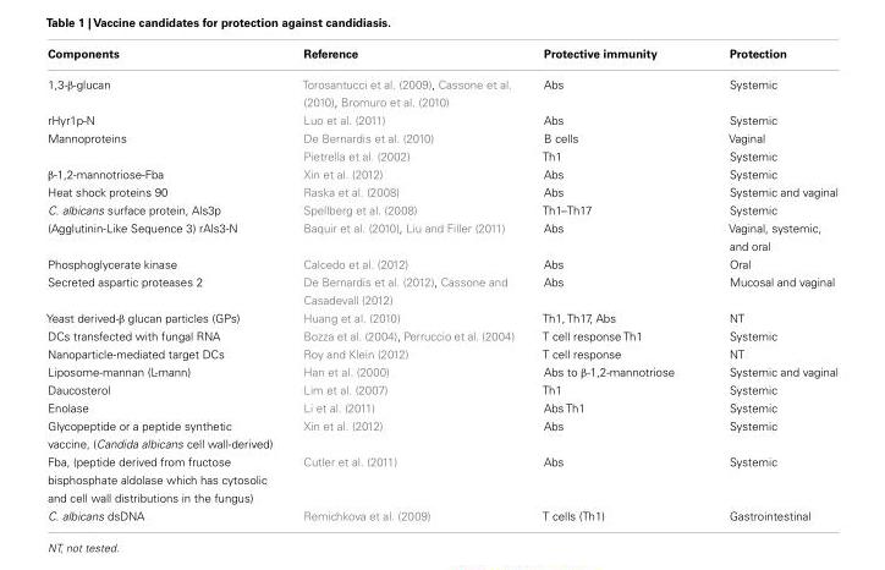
<table><thead><tr><td>Components</td><td>Reference</td><td>Protective immunity</td><td>Protection</td></tr></thead><tbody><tr><td>1,3-β-glucan</td><td>Torosantucci et al. (2009), Cassone et al. (2010), Bromuro et al. (2010)</td><td>Abs</td><td>Systemic</td></tr><tr><td>rHyr1p-N</td><td>Luo et al. (2011)</td><td>Abs</td><td>Systemic</td></tr><tr><td rowspan="2">Mannoproteins</td><td>De Bernardis et al. (2010)</td><td>B cells</td><td>Vaginal</td></tr><tr><td>Pietrella et al. (2002)</td><td>Th1</td><td>Systemic</td></tr><tr><td>β-1,2-mannotriose-Fba</td><td>Xin et al. (2012)</td><td>Abs</td><td>Systemic</td></tr><tr><td>Heat shock proteins 90</td><td>Raska et al. (2008)</td><td>Abs</td><td>Systemic and vaginal</td></tr><tr><td>C. albicans surface protein, Als3p</td><td>Spellberg et al. (2008)</td><td>Th1–Th17</td><td>Systemic</td></tr><tr><td>(Agglutinin-Like Sequence 3) rAls3-N</td><td>Baquir et al. (2010), Liu and Filler (2011)</td><td>Abs</td><td>Vaginal, systemic, and oral</td></tr><tr><td>Phosphoglycerate kinase</td><td>Calcedo et al. (2012)</td><td>Abs</td><td>Oral</td></tr><tr><td>Secreted aspartic proteases 2</td><td>De Bernardis et al. (2012), Cassone and Casadevall (2012)</td><td>Abs</td><td>Mucosal and vaginal</td></tr><tr><td>Yeast derived-β glucan particles (GPs)</td><td>Huang et al. (2010)</td><td>Th1, Th17, Abs</td><td>NT</td></tr><tr><td>DCs transfected with fungal RNA</td><td>Bozza et al. (2004), Perruccio et al. (2004)</td><td>T cell response Th1</td><td>Systemic</td></tr><tr><td>Nanoparticle-mediated target DCs</td><td>Roy and Klein (2012)</td><td>T cell response</td><td>NT</td></tr><tr><td>Liposome-mannan (L-mann)</td><td>Han et al. (2000)</td><td>Abs to β-1,2-mannotriose</td><td>Systemic and vaginal</td></tr><tr><td>Daucosterol</td><td>Lim et al. (2007)</td><td>Th1</td><td>Systemic</td></tr><tr><td>Enolase</td><td>Li et al. (2011)</td><td>Abs Th1</td><td>Systemic</td></tr><tr><td>Glycopeptide or a peptide synthetic vaccine, (Candida albicans cell wall-derived)</td><td>Xin et al. (2012)</td><td>Abs</td><td>Systemic</td></tr><tr><td>Fba, (peptide derived from fructose bisphosphate aldolase which has cytosolic and cell wall distributions in the fungus)</td><td>Cutler et al. (2011)</td><td>Abs</td><td>Systemic</td></tr><tr><td>C. albicans dsDNA</td><td>Remichkova et al. (2009)</td><td>T cells (Th1)</td><td>Gastrointestinal</td></tr></tbody></table>